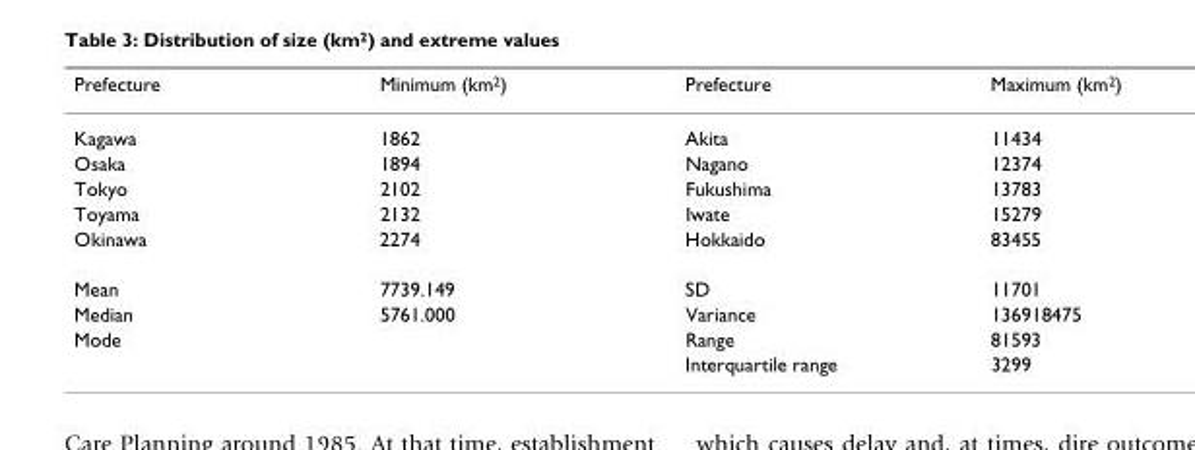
<table><thead><tr><td>Prefecture</td><td>Minimum (km<sup>2</sup>)</td><td>Prefecture</td><td>Maximum (km<sup>2</sup>)</td></tr></thead><tbody><tr><td>Kagawa</td><td>1862</td><td>Akita</td><td>11434</td></tr><tr><td>Osaka</td><td>1894</td><td>Nagano</td><td>12374</td></tr><tr><td>Tokyo</td><td>2102</td><td>Fukushima</td><td>13783</td></tr><tr><td>Toyama</td><td>2132</td><td>Iwate</td><td>15279</td></tr><tr><td>Okinawa</td><td>2274</td><td>Hokkaido</td><td>83455</td></tr><tr><td>Mean</td><td>7739.149</td><td>SD</td><td>11701</td></tr><tr><td>Median</td><td>5761.000</td><td>Variance</td><td>136918475</td></tr><tr><td rowspan="2">Mode</td><td></td><td>Range</td><td>81593</td></tr><tr><td></td><td>Interquartile range</td><td>3299</td></tr></tbody></table>